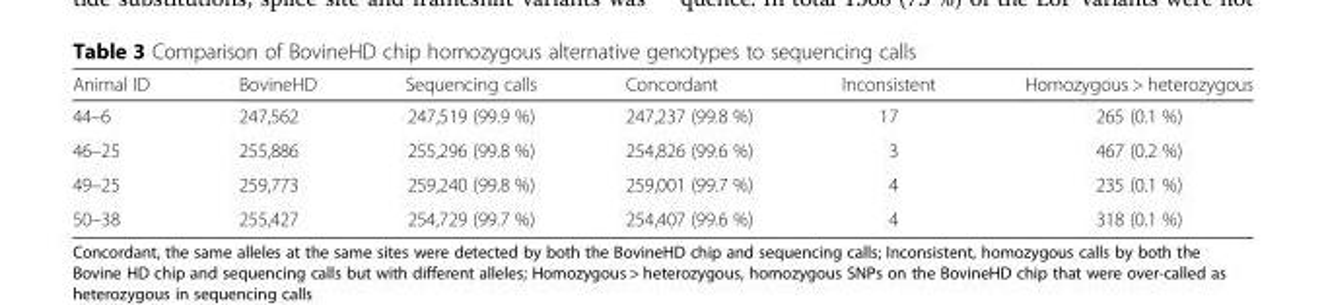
<table><thead><tr><td>Animal ID</td><td>BovineHD</td><td>Sequencing calls</td><td>Concordant</td><td>Inconsistent</td><td>Homozygous &gt; heterozygous</td></tr></thead><tbody><tr><td>44–6</td><td>247,562</td><td>247,519 (99.9 %)</td><td>247,237 (99.8 %)</td><td>17</td><td>265 (0.1 %)</td></tr><tr><td>46–25</td><td>255,886</td><td>255,296 (99.8 %)</td><td>254,826 (99.6 %)</td><td>3</td><td>467 (0.2 %)</td></tr><tr><td>49–25</td><td>259,773</td><td>259,240 (99.8 %)</td><td>259,001 (99.7 %)</td><td>4</td><td>235 (0.1 %)</td></tr><tr><td>50–38</td><td>255,427</td><td>254,729 (99.7 %)</td><td>254,407 (99.6 %)</td><td>4</td><td>318 (0.1 %)</td></tr></tbody></table>